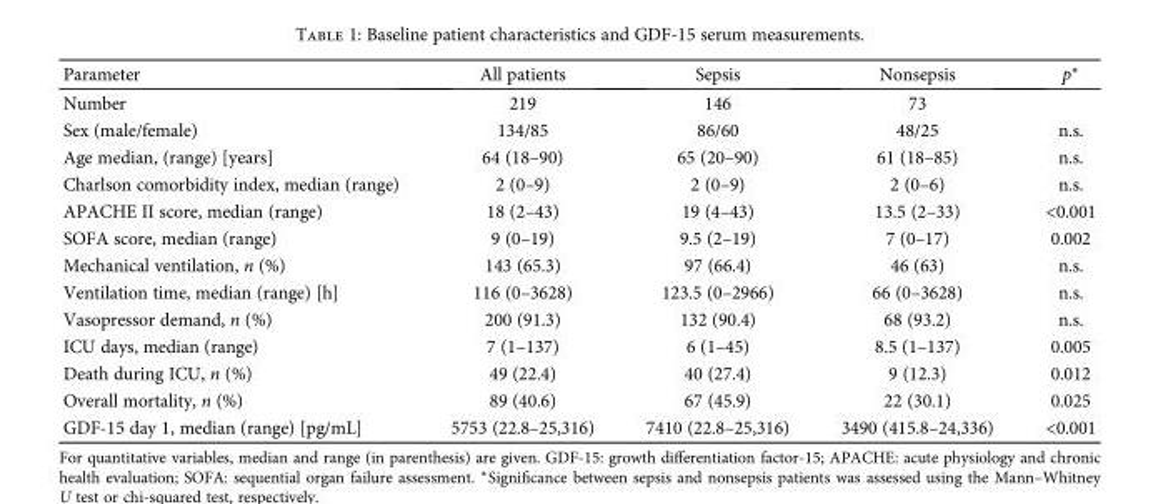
<table><thead><tr><td>Parameter</td><td>All patients</td><td>Sepsis</td><td>Nonsepsis</td><td>p∗</td></tr></thead><tbody><tr><td>Number</td><td>219</td><td>146</td><td>73</td><td></td></tr><tr><td>Sex (male/female)</td><td>134/85</td><td>86/60</td><td>48/25</td><td>n.s.</td></tr><tr><td>Age median, (range) [years]</td><td>64 (18–90)</td><td>65 (20–90)</td><td>61 (18–85)</td><td>n.s.</td></tr><tr><td>Charlson comorbidity index, median (range)</td><td>2 (0–9)</td><td>2 (0–9)</td><td>2 (0–6)</td><td>n.s.</td></tr><tr><td>APACHE II score, median (range)</td><td>18 (2–43)</td><td>19 (4–43)</td><td>13.5 (2–33)</td><td>&lt;0.001</td></tr><tr><td>SOFA score, median (range)</td><td>9 (0–19)</td><td>9.5 (2–19)</td><td>7 (0–17)</td><td>0.002</td></tr><tr><td>Mechanical ventilation, n (%)</td><td>143 (65.3)</td><td>97 (66.4)</td><td>46 (63)</td><td>n.s.</td></tr><tr><td>Ventilation time, median (range) [h]</td><td>116 (0–3628)</td><td>123.5 (0–2966)</td><td>66 (0–3628)</td><td>n.s.</td></tr><tr><td>Vasopressor demand, n (%)</td><td>200 (91.3)</td><td>132 (90.4)</td><td>68 (93.2)</td><td>n.s.</td></tr><tr><td>ICU days, median (range)</td><td>7 (1–137)</td><td>6 (1–45)</td><td>8.5 (1–137)</td><td>0.005</td></tr><tr><td>Death during ICU, n (%)</td><td>49 (22.4)</td><td>40 (27.4)</td><td>9 (12.3)</td><td>0.012</td></tr><tr><td>Overall mortality, n (%)</td><td>89 (40.6)</td><td>67 (45.9)</td><td>22 (30.1)</td><td>0.025</td></tr><tr><td>GDF-15 day 1, median (range) [pg/mL]</td><td>5753 (22.8–25,316)</td><td>7410 (22.8–25,316)</td><td>3490 (415.8–24,336)</td><td>&lt;0.001</td></tr></tbody></table>